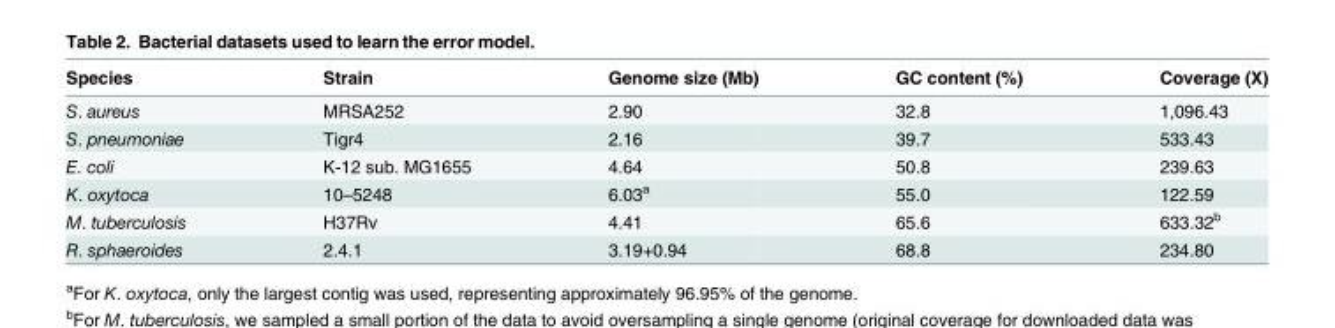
<table><thead><tr><td>Species</td><td>Strain</td><td>Genome size (Mb)</td><td>GC content (%)</td><td>Coverage (X)</td></tr></thead><tbody><tr><td>S. aureus</td><td>MRSA252</td><td>2.90</td><td>32.8</td><td>1,096.43</td></tr><tr><td>S. pneumoniae</td><td>Tigr4</td><td>2.16</td><td>39.7</td><td>533.43</td></tr><tr><td>E. coli</td><td>K-12 sub. MG1655</td><td>4.64</td><td>50.8</td><td>239.63</td></tr><tr><td>K. oxytoca</td><td>10–5248</td><td>6.03<sup>a</sup></td><td>55.0</td><td>122.59</td></tr><tr><td>M. tuberculosis</td><td>H37Rv</td><td>4.41</td><td>65.6</td><td>633.32<sup>b</sup></td></tr><tr><td>R. sphaeroides</td><td>2.4.1</td><td>3.19+0.94</td><td>68.8</td><td>234.80</td></tr></tbody></table>